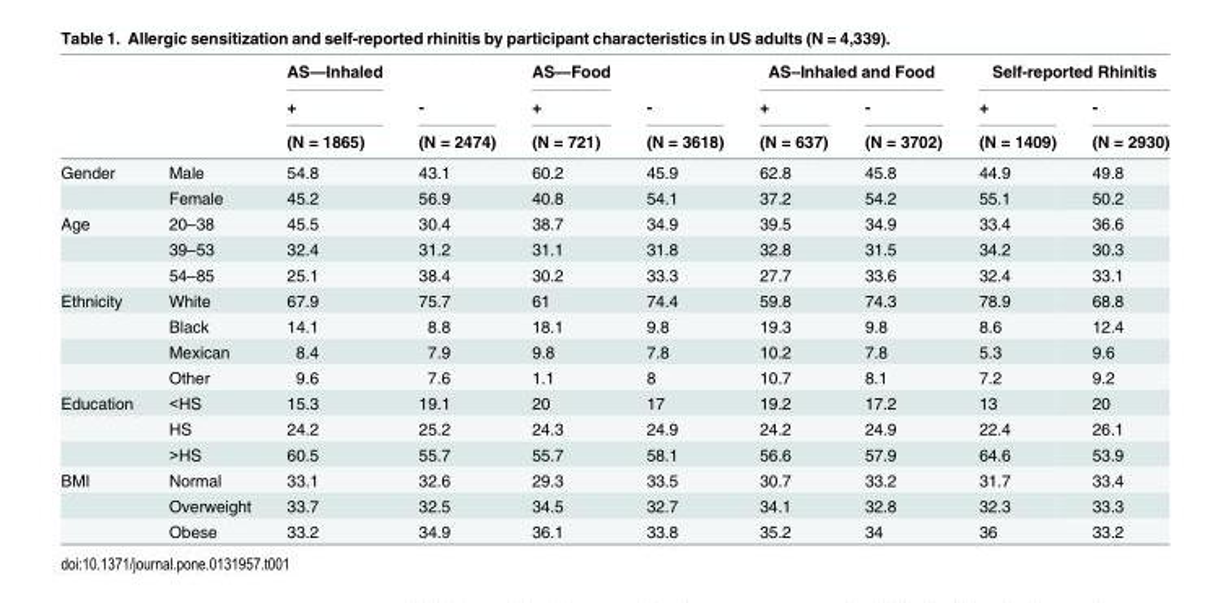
<table><thead><tr><td rowspan="3"></td><td rowspan="3"></td><td rowspan="3">AS—Inhaled + (N = 1865)</td><td rowspan="3">- (N = 2474)</td><td rowspan="3">AS—Food + (N = 721)</td><td rowspan="3">- (N = 3618)</td><td colspan="2">AS–Inhaled and Food</td><td colspan="2">Self-reported Rhinitis</td></tr><tr><td rowspan="2">+ (N = 637)</td><td rowspan="2">- (N = 3702)</td><td rowspan="2">+ (N = 1409)</td><td rowspan="2">- (N = 2930)</td></tr><tr></tr></thead><tbody><tr><td rowspan="2">Gender</td><td>Male</td><td>54.8</td><td>43.1</td><td>60.2</td><td>45.9</td><td>62.8</td><td>45.8</td><td>44.9</td><td>49.8</td></tr><tr><td>Female</td><td>45.2</td><td>56.9</td><td>40.8</td><td>54.1</td><td>37.2</td><td>54.2</td><td>55.1</td><td>50.2</td></tr><tr><td rowspan="3">Age</td><td>20–38</td><td>45.5</td><td>30.4</td><td>38.7</td><td>34.9</td><td>39.5</td><td>34.9</td><td>33.4</td><td>36.6</td></tr><tr><td>39–53</td><td>32.4</td><td>31.2</td><td>31.1</td><td>31.8</td><td>32.8</td><td>31.5</td><td>34.2</td><td>30.3</td></tr><tr><td>54–85</td><td>25.1</td><td>38.4</td><td>30.2</td><td>33.3</td><td>27.7</td><td>33.6</td><td>32.4</td><td>33.1</td></tr><tr><td rowspan="4">Ethnicity</td><td>White</td><td>67.9</td><td>75.7</td><td>61</td><td>74.4</td><td>59.8</td><td>74.3</td><td>78.9</td><td>68.8</td></tr><tr><td>Black</td><td>14.1</td><td>8.8</td><td>18.1</td><td>9.8</td><td>19.3</td><td>9.8</td><td>8.6</td><td>12.4</td></tr><tr><td>Mexican</td><td>8.4</td><td>7.9</td><td>9.8</td><td>7.8</td><td>10.2</td><td>7.8</td><td>5.3</td><td>9.6</td></tr><tr><td>Other</td><td>9.6</td><td>7.6</td><td>1.1</td><td>8</td><td>10.7</td><td>8.1</td><td>7.2</td><td>9.2</td></tr><tr><td rowspan="3">Education</td><td>&lt;HS</td><td>15.3</td><td>19.1</td><td>20</td><td>17</td><td>19.2</td><td>17.2</td><td>13</td><td>20</td></tr><tr><td>HS</td><td>24.2</td><td>25.2</td><td>24.3</td><td>24.9</td><td>24.2</td><td>24.9</td><td>22.4</td><td>26.1</td></tr><tr><td>&gt;HS</td><td>60.5</td><td>55.7</td><td>55.7</td><td>58.1</td><td>56.6</td><td>57.9</td><td>64.6</td><td>53.9</td></tr><tr><td rowspan="3">BMI</td><td>Normal</td><td>33.1</td><td>32.6</td><td>29.3</td><td>33.5</td><td>30.7</td><td>33.2</td><td>31.7</td><td>33.4</td></tr><tr><td>Overweight</td><td>33.7</td><td>32.5</td><td>34.5</td><td>32.7</td><td>34.1</td><td>32.8</td><td>32.3</td><td>33.3</td></tr><tr><td>Obese</td><td>33.2</td><td>34.9</td><td>36.1</td><td>33.8</td><td>35.2</td><td>34</td><td>36</td><td>33.2</td></tr></tbody></table>